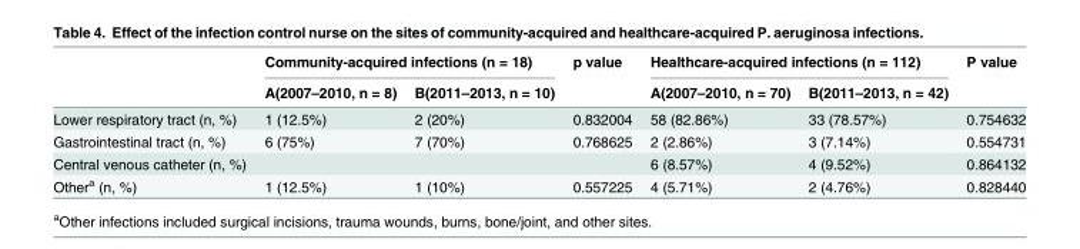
<table><thead><tr><td rowspan="2"></td><td colspan="2">Community-acquired infections (n = 18)</td><td rowspan="2">p value</td><td colspan="2">Healthcare-acquired infections (n = 112)</td><td rowspan="2">P value</td></tr><tr><td>A(2007–2010, n = 8)</td><td>B(2011–2013, n = 10)</td><td>A(2007–2010, n = 70)</td><td>B(2011–2013, n = 42)</td></tr></thead><tbody><tr><td>Lower respiratory tract (n, %)</td><td>1 (12.5%)</td><td>2 (20%)</td><td>0.832004</td><td>58 (82.86%)</td><td>33 (78.57%)</td><td>0.754632</td></tr><tr><td>Gastrointestinal tract (n, %)</td><td>6 (75%)</td><td>7 (70%)</td><td>0.768625</td><td>2 (2.86%)</td><td>3 (7.14%)</td><td>0.554731</td></tr><tr><td>Central venous catheter (n, %)</td><td></td><td></td><td></td><td>6 (8.57%)</td><td>4 (9.52%)</td><td>0.864132</td></tr><tr><td>Other<sup>a</sup> (n, %)</td><td>1 (12.5%)</td><td>1 (10%)</td><td>0.557225</td><td>4 (5.71%)</td><td>2 (4.76%)</td><td>0.828440</td></tr></tbody></table>